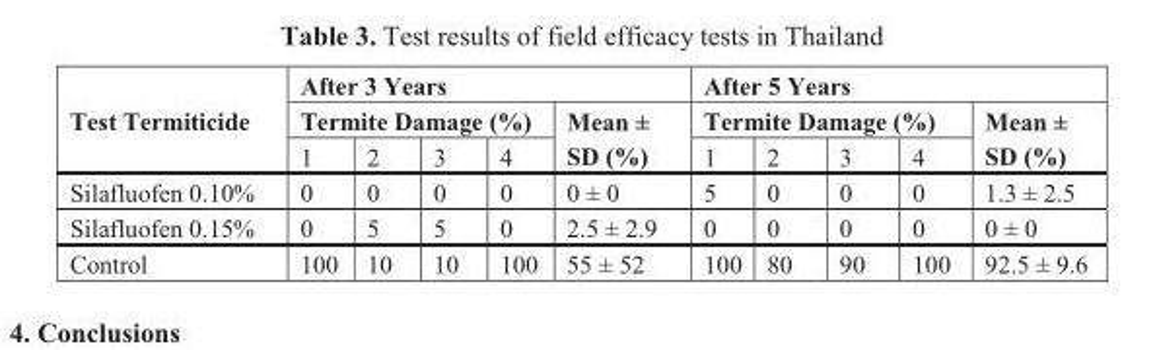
<table><thead><tr><td rowspan="3">Test Termiticide</td><td colspan="5">After 3 Years</td><td colspan="5">After 5 Years</td></tr><tr><td colspan="4">Termite Damage (%)</td><td rowspan="2">Mean ± SD (%)</td><td colspan="4">Termite Damage (%)</td><td rowspan="2">Mean ± SD (%)</td></tr><tr><td>1</td><td>2</td><td>3</td><td>4</td><td>1</td><td>2</td><td>3</td><td>4</td></tr></thead><tbody><tr><td>Silafluofen 0.10%</td><td>0</td><td>0</td><td>0</td><td>0</td><td>0 ± 0</td><td>5</td><td>0</td><td>0</td><td>0</td><td>1.3 ± 2.5</td></tr><tr><td>Silafluofen 0.15%</td><td>0</td><td>5</td><td>5</td><td>0</td><td>2.5 ± 2.9</td><td>0</td><td>0</td><td>0</td><td>0</td><td>0 ± 0</td></tr><tr><td>Control</td><td>100</td><td>10</td><td>10</td><td>100</td><td>55 ± 52</td><td>100</td><td>80</td><td>90</td><td>100</td><td>92.5 ± 9.6</td></tr></tbody></table>